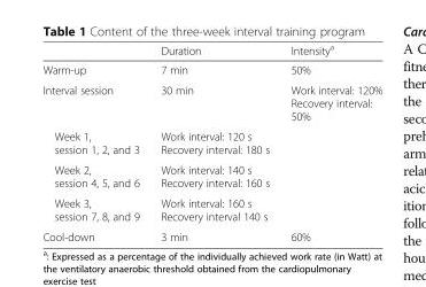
<table><thead><tr><td></td><td>Duration</td><td>Intensity<sup>a</sup></td></tr></thead><tbody><tr><td>Warm-up</td><td>7 min</td><td>50%</td></tr><tr><td>Interval session</td><td>30 min</td><td>Work interval: 120% Recovery interval: 50%</td></tr><tr><td>Week 1, session 1, 2, and 3</td><td>Work interval: 120 s Recovery interval: 180 s</td><td></td></tr><tr><td>Week 2, session 4, 5, and 6</td><td>Work interval: 140 s Recovery interval: 160 s</td><td></td></tr><tr><td>Week 3, session 7, 8, and 9</td><td>Work interval: 160 s Recovery interval 140 s</td><td></td></tr><tr><td>Cool-down</td><td>3 min</td><td>60%</td></tr></tbody></table>